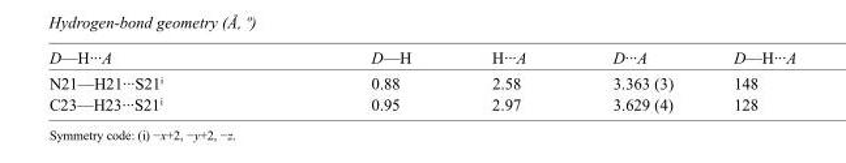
<table><tbody><tr><td>D—H···A</td><td>D—H</td><td>H···A</td><td>D···A</td><td>D—H···A</td></tr><tr><td>N21—H21···S21<sup>i</sup></td><td>0.88</td><td>2.58</td><td>3.363 (3)</td><td>148</td></tr><tr><td>C23—H23···S21<sup>i</sup></td><td>0.95</td><td>2.97</td><td>3.629 (4)</td><td>128</td></tr></tbody></table>